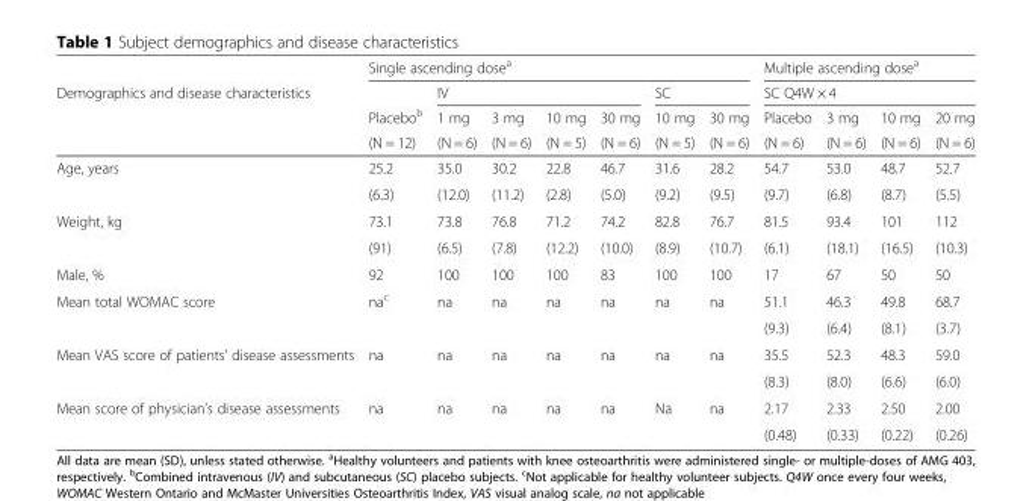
<table><thead><tr><td rowspan="4">Demographics and disease characteristics</td><td colspan="7">Single ascending dose<sup>a</sup></td><td rowspan="2" colspan="4">Multiple ascending dose<sup>a</sup> SC Q4W × 4</td></tr><tr><td rowspan="3">Placebo<sup>b</sup> (N = 12)</td><td colspan="4">IV</td><td colspan="2">SC</td></tr><tr><td rowspan="2">1 mg (N = 6)</td><td rowspan="2">3 mg (N = 6)</td><td rowspan="2">10 mg (N = 5)</td><td rowspan="2">30 mg (N = 6)</td><td rowspan="2">10 mg (N = 5)</td><td rowspan="2">30 mg (N = 6)</td><td rowspan="2">Placebo (N = 6)</td><td rowspan="2">3 mg (N = 6)</td><td rowspan="2">10 mg (N = 6)</td><td rowspan="2">20 mg (N = 6)</td></tr><tr></tr></thead><tbody><tr><td rowspan="2">Age, years</td><td>25.2</td><td>35.0</td><td>30.2</td><td>22.8</td><td>46.7</td><td>31.6</td><td>28.2</td><td>54.7</td><td>53.0</td><td>48.7</td><td>52.7</td></tr><tr><td>(6.3)</td><td>(12.0)</td><td>(11.2)</td><td>(2.8)</td><td>(5.0)</td><td>(9.2)</td><td>(9.5)</td><td>(9.7)</td><td>(6.8)</td><td>(8.7)</td><td>(5.5)</td></tr><tr><td rowspan="2">Weight, kg</td><td>73.1</td><td>73.8</td><td>76.8</td><td>71.2</td><td>74.2</td><td>82.8</td><td>76.7</td><td>81.5</td><td>93.4</td><td>101</td><td>112</td></tr><tr><td>(91)</td><td>(6.5)</td><td>(7.8)</td><td>(12.2)</td><td>(10.0)</td><td>(8.9)</td><td>(10.7)</td><td>(6.1)</td><td>(18.1)</td><td>(16.5)</td><td>(10.3)</td></tr><tr><td>Male, %</td><td>92</td><td>100</td><td>100</td><td>100</td><td>83</td><td>100</td><td>100</td><td>17</td><td>67</td><td>50</td><td>50</td></tr><tr><td rowspan="2">Mean total WOMAC score</td><td>na<sup>c</sup></td><td>na</td><td>na</td><td>na</td><td>na</td><td>na</td><td>na</td><td>51.1</td><td>46.3</td><td>49.8</td><td>68.7</td></tr><tr><td></td><td></td><td></td><td></td><td></td><td></td><td></td><td>(9.3)</td><td>(6.4)</td><td>(8.1)</td><td>(3.7)</td></tr><tr><td rowspan="2">Mean VAS score of patients’ disease assessments</td><td>na</td><td>na</td><td>na</td><td>na</td><td>na</td><td>na</td><td>na</td><td>35.5</td><td>52.3</td><td>48.3</td><td>59.0</td></tr><tr><td></td><td></td><td></td><td></td><td></td><td></td><td></td><td>(8.3)</td><td>(8.0)</td><td>(6.6)</td><td>(6.0)</td></tr><tr><td rowspan="2">Mean score of physician’s disease assessments</td><td>na</td><td>na</td><td>na</td><td>na</td><td>na</td><td>Na</td><td>na</td><td>2.17</td><td>2.33</td><td>2.50</td><td>2.00</td></tr><tr><td></td><td></td><td></td><td></td><td></td><td></td><td></td><td>(0.48)</td><td>(0.33)</td><td>(0.22)</td><td>(0.26)</td></tr></tbody></table>